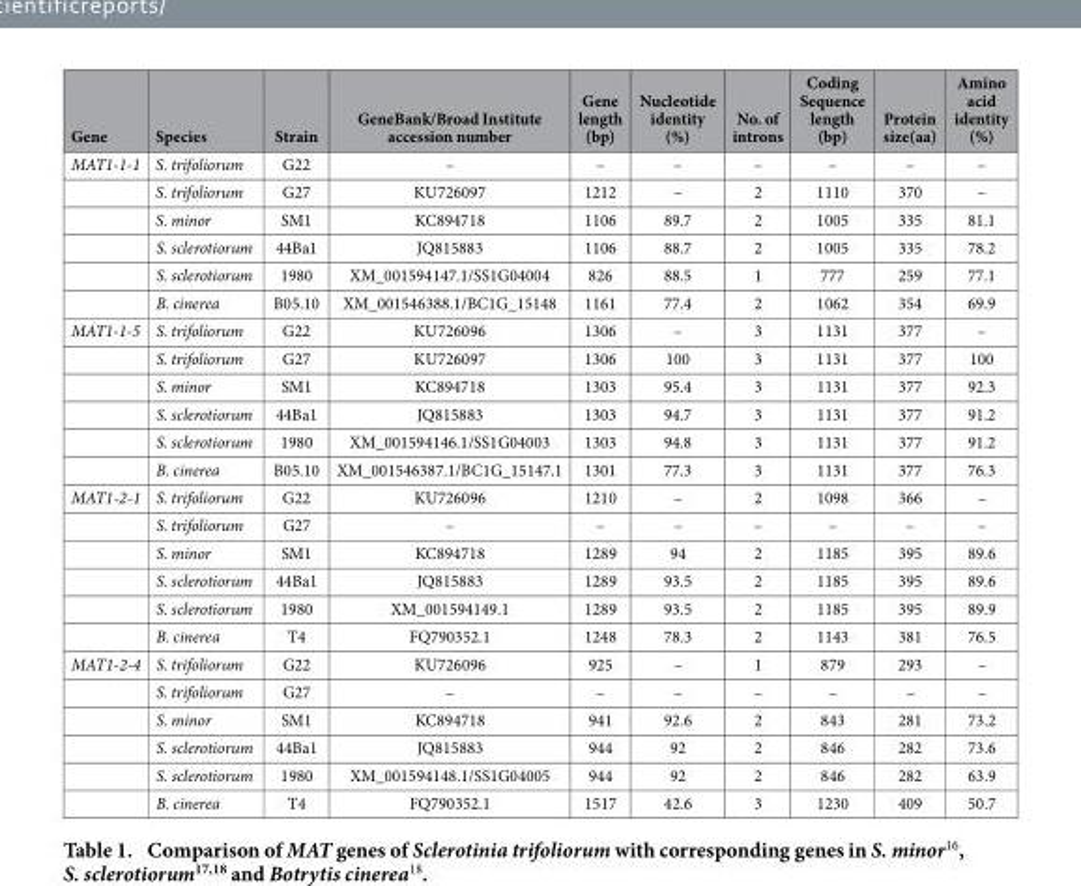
<table><thead><tr><td>Gene</td><td>Species</td><td>Strain</td><td>GeneBank/Broad Institute accession number</td><td>Gene length (bp)</td><td>Nucleotide identity (%)</td><td>No. of introns</td><td>Coding Sequence length (bp)</td><td>Protein size(aa)</td><td>Amino acid identity (%)</td></tr></thead><tbody><tr><td rowspan="6">MAT1-1-1</td><td>S. trifoliorum</td><td>G22</td><td>–</td><td>–</td><td>–</td><td>–</td><td>–</td><td>–</td><td>–</td></tr><tr><td>S. trifoliorum</td><td>G27</td><td>KU726097</td><td>1212</td><td>–</td><td>2</td><td>1110</td><td>370</td><td>–</td></tr><tr><td>S. minor</td><td>SM1</td><td>KC894718</td><td>1106</td><td>89.7</td><td>2</td><td>1005</td><td>335</td><td>81.1</td></tr><tr><td>S. sclerotiorum</td><td>44Ba1</td><td>JQ815883</td><td>1106</td><td>88.7</td><td>2</td><td>1005</td><td>335</td><td>78.2</td></tr><tr><td>S. sclerotiorum</td><td>1980</td><td>XM_001594147.1/SS1G04004</td><td>826</td><td>88.5</td><td>1</td><td>777</td><td>259</td><td>77.1</td></tr><tr><td>B. cinerea</td><td>B05.10</td><td>XM_001546388.1/BC1G_15148</td><td>1161</td><td>77.4</td><td>2</td><td>1062</td><td>354</td><td>69.9</td></tr><tr><td rowspan="6">MAT1-1-5</td><td>S. trifoliorum</td><td>G22</td><td>KU726096</td><td>1306</td><td>–</td><td>3</td><td>1131</td><td>377</td><td>–</td></tr><tr><td>S. trifoliorum</td><td>G27</td><td>KU726097</td><td>1306</td><td>100</td><td>3</td><td>1131</td><td>377</td><td>100</td></tr><tr><td>S. minor</td><td>SM1</td><td>KC894718</td><td>1303</td><td>95.4</td><td>3</td><td>1131</td><td>377</td><td>92.3</td></tr><tr><td>S. sclerotiorum</td><td>44Ba1</td><td>JQ815883</td><td>1303</td><td>94.7</td><td>3</td><td>1131</td><td>377</td><td>91.2</td></tr><tr><td>S. sclerotiorum</td><td>1980</td><td>XM_001594146.1/SS1G04003</td><td>1303</td><td>94.8</td><td>3</td><td>1131</td><td>377</td><td>91.2</td></tr><tr><td>B. cinerea</td><td>B05.10</td><td>XM_001546387.1/BC1G_15147.1</td><td>1301</td><td>77.3</td><td>3</td><td>1131</td><td>377</td><td>76.3</td></tr><tr><td rowspan="6">MAT1-2-1</td><td>S. trifoliorum</td><td>G22</td><td>KU726096</td><td>1210</td><td>–</td><td>2</td><td>1098</td><td>366</td><td>–</td></tr><tr><td>S. trifoliorum</td><td>G27</td><td>–</td><td>–</td><td>–</td><td>–</td><td>–</td><td>–</td><td>–</td></tr><tr><td>S. minor</td><td>SM1</td><td>KC894718</td><td>1289</td><td>94</td><td>2</td><td>1185</td><td>395</td><td>89.6</td></tr><tr><td>S. sclerotiorum</td><td>44Ba1</td><td>JQ815883</td><td>1289</td><td>93.5</td><td>2</td><td>1185</td><td>395</td><td>89.6</td></tr><tr><td>S. sclerotiorum</td><td>1980</td><td>XM_001594149.1</td><td>1289</td><td>93.5</td><td>2</td><td>1185</td><td>395</td><td>89.9</td></tr><tr><td>B. cinerea</td><td>T4</td><td>FQ790352.1</td><td>1248</td><td>78.3</td><td>2</td><td>1143</td><td>381</td><td>76.5</td></tr><tr><td rowspan="6">MAT1-2-4</td><td>S. trifoliorum</td><td>G22</td><td>KU726096</td><td>925</td><td>–</td><td>1</td><td>879</td><td>293</td><td>–</td></tr><tr><td>S. trifoliorum</td><td>G27</td><td>–</td><td>–</td><td>–</td><td>–</td><td>–</td><td>–</td><td>–</td></tr><tr><td>S. minor</td><td>SM1</td><td>KC894718</td><td>941</td><td>92.6</td><td>2</td><td>843</td><td>281</td><td>73.2</td></tr><tr><td>S. sclerotiorum</td><td>44Ba1</td><td>JQ815883</td><td>944</td><td>92</td><td>2</td><td>846</td><td>282</td><td>73.6</td></tr><tr><td>S. sclerotiorum</td><td>1980</td><td>XM_001594148.1/SS1G04005</td><td>944</td><td>92</td><td>2</td><td>846</td><td>282</td><td>63.9</td></tr><tr><td>B. cinerea</td><td>T4</td><td>FQ790352.1</td><td>1517</td><td>42.6</td><td>3</td><td>1230</td><td>409</td><td>50.7</td></tr></tbody></table>